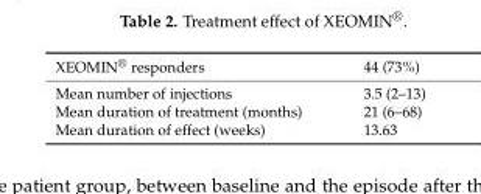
<table><tbody><tr><td>XEOMIN<sup>®</sup> responders</td><td>44 (73%)</td></tr><tr><td>Mean number of injections</td><td>3.5 (2–13)</td></tr><tr><td>Mean duration of treatment (months)</td><td>21 (6–68)</td></tr><tr><td>Mean duration of effect (weeks)</td><td>13.63</td></tr></tbody></table>